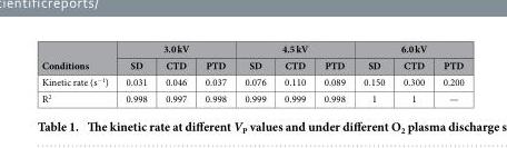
<table><thead><tr><td rowspan="2">Conditions</td><td colspan="3">3.0 kV</td><td colspan="3">4.5 kV</td><td colspan="3">6.0 kV</td></tr><tr><td>SD</td><td>CTD</td><td>PTD</td><td>SD</td><td>CTD</td><td>PTD</td><td>SD</td><td>CTD</td><td>PTD</td></tr></thead><tbody><tr><td>Kinetic rate (s<sup>−1</sup>)</td><td>0.031</td><td>0.046</td><td>0.037</td><td>0.076</td><td>0.110</td><td>0.089</td><td>0.150</td><td>0.300</td><td>0.200</td></tr><tr><td>R<sup>2</sup></td><td>0.998</td><td>0.997</td><td>0.998</td><td>0.999</td><td>0.999</td><td>0.998</td><td>1</td><td>1</td><td>—</td></tr></tbody></table>